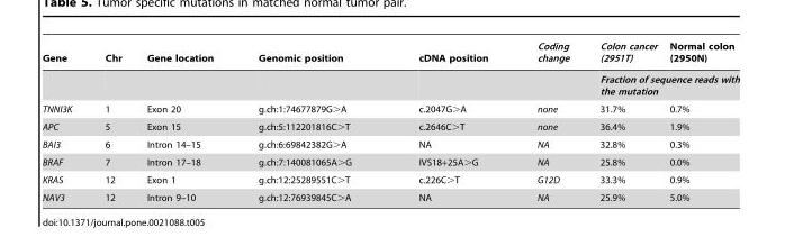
<table><thead><tr><td>Gene</td><td>Chr</td><td>Gene location</td><td>Genomic position</td><td>cDNA position</td><td>Coding change</td><td>Colon cancer (2951T)</td><td>Normal colon (2950N)</td></tr></thead><tbody><tr><td></td><td></td><td></td><td></td><td></td><td></td><td colspan="2">Fraction of sequence reads with the mutation</td></tr><tr><td>TNNI3K</td><td>1</td><td>Exon 20</td><td>g.ch:1:74677879G&gt;A</td><td>c.2047G&gt;A</td><td>none</td><td>31.7%</td><td>0.7%</td></tr><tr><td>APC</td><td>5</td><td>Exon 15</td><td>g.ch:5:112201816C&gt;T</td><td>c.2646C&gt;T</td><td>none</td><td>36.4%</td><td>1.9%</td></tr><tr><td>BAI3</td><td>6</td><td>Intron 14–15</td><td>g.ch:6:69842382G&gt;A</td><td>NA</td><td>NA</td><td>32.8%</td><td>0.3%</td></tr><tr><td>BRAF</td><td>7</td><td>Intron 17–18</td><td>g.ch:7:140081065A&gt;G</td><td>IVS18+25A&gt;G</td><td>NA</td><td>25.8%</td><td>0.0%</td></tr><tr><td>KRAS</td><td>12</td><td>Exon 1</td><td>g.ch:12:25289551C&gt;T</td><td>c.226C&gt;T</td><td>G12D</td><td>33.3%</td><td>0.9%</td></tr><tr><td>NAV3</td><td>12</td><td>Intron 9–10</td><td>g.ch:12:76939845C&gt;A</td><td>NA</td><td>NA</td><td>25.9%</td><td>5.0%</td></tr></tbody></table>